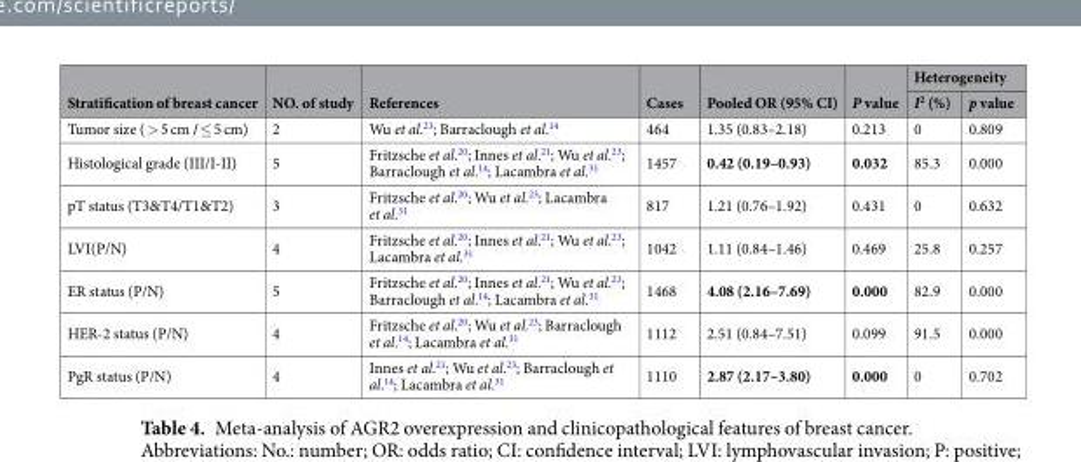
<table><thead><tr><td rowspan="2">Stratification of breast cancer</td><td rowspan="2">NO. of study</td><td rowspan="2">References</td><td rowspan="2">Cases</td><td rowspan="2">Pooled OR (95% CI)</td><td rowspan="2">P value</td><td colspan="2">Heterogeneity</td></tr><tr><td>I<sup>2</sup> (%)</td><td>p value</td></tr></thead><tbody><tr><td>Tumor size ( &gt; 5 cm / ≤ 5 cm)</td><td>2</td><td>Wu et al.<sup>23</sup>; Barraclough et al.<sup>14</sup></td><td>464</td><td>1.35 (0.83–2.18)</td><td>0.213</td><td>0</td><td>0.809</td></tr><tr><td>Histological grade (III/I-II)</td><td>5</td><td>Fritzsche et al.<sup>20</sup>; Innes et al.<sup>21</sup>; Wu et al.<sup>23</sup>; Barraclough et al.<sup>14</sup>; Lacambra et al.<sup>31</sup></td><td>1457</td><td>0.42 (0.19–0.93)</td><td>0.032</td><td>85.3</td><td>0.000</td></tr><tr><td>pT status (T3&amp;T4/T1&amp;T2)</td><td>3</td><td>Fritzsche et al.<sup>20</sup>; Wu et al.<sup>23</sup>; Lacambra et al.<sup>31</sup></td><td>817</td><td>1.21 (0.76–1.92)</td><td>0.431</td><td>0</td><td>0.632</td></tr><tr><td>LVI(P/N)</td><td>4</td><td>Fritzsche et al.<sup>20</sup>; Innes et al.<sup>21</sup>; Wu et al.<sup>23</sup>; Lacambra et al.<sup>31</sup></td><td>1042</td><td>1.11 (0.84–1.46)</td><td>0.469</td><td>25.8</td><td>0.257</td></tr><tr><td>ER status (P/N)</td><td>5</td><td>Fritzsche et al.<sup>20</sup>; Innes et al.<sup>21</sup>; Wu et al.<sup>23</sup>; Barraclough et al.<sup>14</sup>; Lacambra et al.<sup>31</sup></td><td>1468</td><td>4.08 (2.16–7.69)</td><td>0.000</td><td>82.9</td><td>0.000</td></tr><tr><td>HER-2 status (P/N)</td><td>4</td><td>Fritzsche et al.<sup>20</sup>; Wu et al.<sup>23</sup>; Barraclough et al.<sup>14</sup>; Lacambra et al.<sup>31</sup></td><td>1112</td><td>2.51 (0.84–7.51)</td><td>0.099</td><td>91.5</td><td>0.000</td></tr><tr><td>PgR status (P/N)</td><td>4</td><td>Innes et al.<sup>21</sup>; Wu et al.<sup>23</sup>; Barraclough et al.<sup>14</sup>; Lacambra et al.<sup>31</sup></td><td>1110</td><td>2.87 (2.17–3.80)</td><td>0.000</td><td>0</td><td>0.702</td></tr></tbody></table>